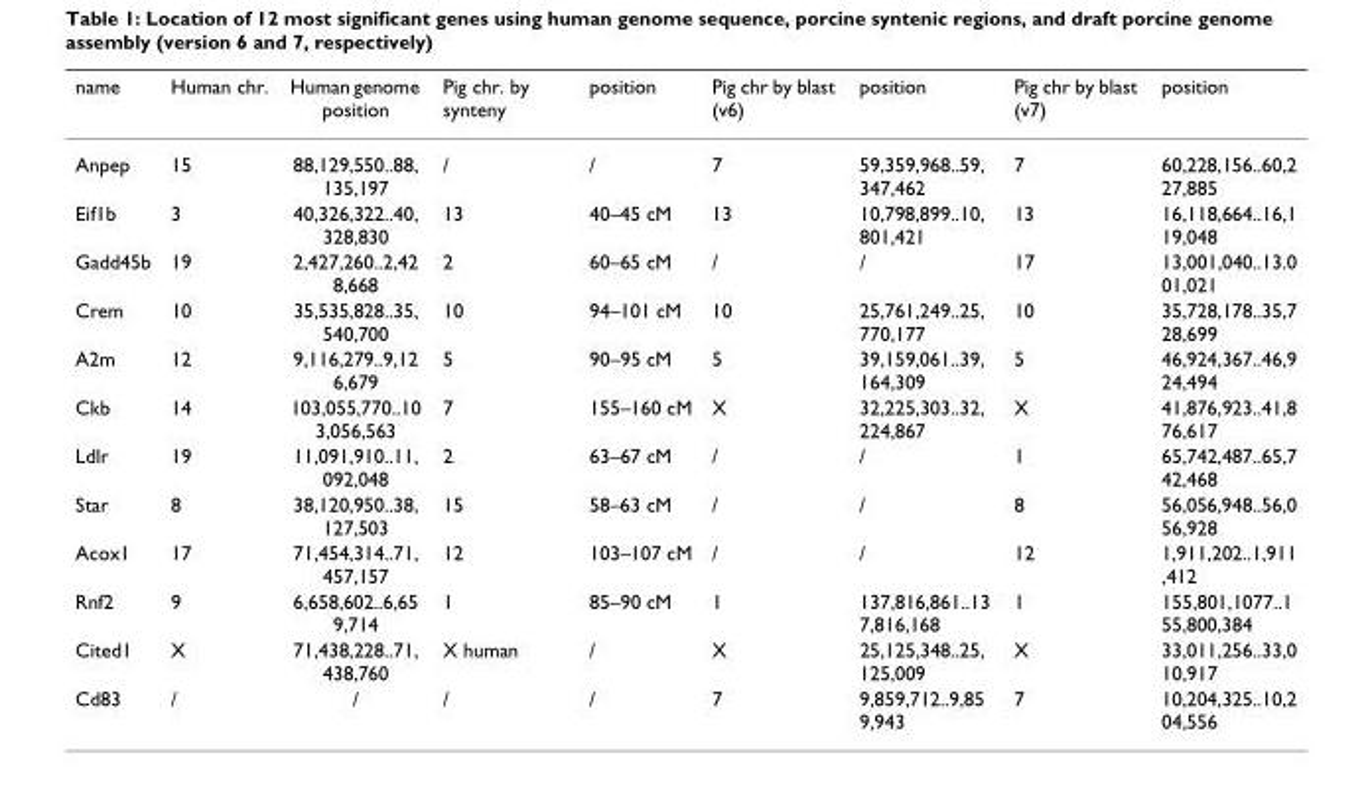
<table><thead><tr><td>name</td><td>Human chr.</td><td>Human genome position</td><td>Pig chr. by synteny</td><td>position</td><td>Pig chr by blast (v6)</td><td>position</td><td>Pig chr by blast (v7)</td><td>position</td></tr></thead><tbody><tr><td>Anpep</td><td>15</td><td>88,129,550..88, 135,197</td><td>/</td><td>/</td><td>7</td><td>59,359,968..59, 347,462</td><td>7</td><td>60,228,156..60,2 27,885</td></tr><tr><td>Eif1b</td><td>3</td><td>40,326,322..40, 328,830</td><td>13</td><td>40–45 cM</td><td>13</td><td>10,798,899..10, 801,421</td><td>13</td><td>16,118,664..16,1 19,048</td></tr><tr><td>Gadd45b</td><td>19</td><td>2,427,260..2,42 8,668</td><td>2</td><td>60–65 cM</td><td>/</td><td>/</td><td>17</td><td>13,001,040..13.0 01,021</td></tr><tr><td>Crem</td><td>10</td><td>35,535,828..35, 540,700</td><td>10</td><td>94–101 cM</td><td>10</td><td>25,761,249..25, 770,177</td><td>10</td><td>35,728,178..35,7 28,699</td></tr><tr><td>A2m</td><td>12</td><td>9,116,279..9,12 6,679</td><td>5</td><td>90–95 cM</td><td>5</td><td>39,159,061..39, 164,309</td><td>5</td><td>46,924,367..46,9 24,494</td></tr><tr><td>Ckb</td><td>14</td><td>103,055,770..10 3,056,563</td><td>7</td><td>155–160 cM</td><td>X</td><td>32,225,303..32, 224,867</td><td>X</td><td>41,876,923..41,8 76,617</td></tr><tr><td>Ldlr</td><td>19</td><td>11,091,910..11, 092,048</td><td>2</td><td>63–67 cM</td><td>/</td><td>/</td><td>1</td><td>65,742,487..65,7 42,468</td></tr><tr><td>Star</td><td>8</td><td>38,120,950..38, 127,503</td><td>15</td><td>58–63 cM</td><td>/</td><td>/</td><td>8</td><td>56,056,948..56,0 56,928</td></tr><tr><td>Acox1</td><td>17</td><td>71,454,314..71, 457,157</td><td>12</td><td>103–107 cM</td><td>/</td><td>/</td><td>12</td><td>1,911,202..1,911 ,412</td></tr><tr><td>Rnf2</td><td>9</td><td>6,658,602..6,65 9,714</td><td>1</td><td>85–90 cM</td><td>1</td><td>137,816,861..13 7,816,168</td><td>1</td><td>155,801,1077..1 55,800,384</td></tr><tr><td>Cited1</td><td>X</td><td>71,438,228..71, 438,760</td><td>X human</td><td>/</td><td>X</td><td>25,125,348..25, 125,009</td><td>X</td><td>33,011,256..33,0 10,917</td></tr><tr><td>Cd83</td><td>/</td><td>/</td><td>/</td><td>/</td><td>7</td><td>9,859,712..9,85 9,943</td><td>7</td><td>10,204,325..10,2 04,556</td></tr></tbody></table>